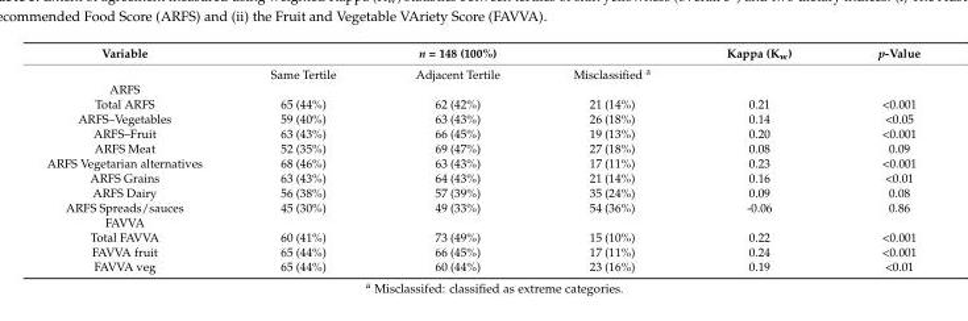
<table><thead><tr><td rowspan="2">Variable</td><td colspan="3">n = 148 (100%)</td><td rowspan="2">Kappa (K<sub>w</sub>)</td><td rowspan="2">p-Value</td></tr><tr><td>Same Tertile</td><td>Adjacent Tertile</td><td>Misclassified <sup>a</sup></td></tr></thead><tbody><tr><td colspan="6">ARFS</td></tr><tr><td>Total ARFS</td><td>65 (44%)</td><td>62 (42%)</td><td>21 (14%)</td><td>0.21</td><td>&lt;0.001</td></tr><tr><td>ARFS–Vegetables</td><td>59 (40%)</td><td>63 (43%)</td><td>26 (18%)</td><td>0.14</td><td>&lt;0.05</td></tr><tr><td>ARFS–Fruit</td><td>63 (43%)</td><td>66 (45%)</td><td>19 (13%)</td><td>0.20</td><td>&lt;0.001</td></tr><tr><td>ARFS Meat</td><td>52 (35%)</td><td>69 (47%)</td><td>27 (18%)</td><td>0.08</td><td>0.09</td></tr><tr><td>ARFS Vegetarian alternatives</td><td>68 (46%)</td><td>63 (43%)</td><td>17 (11%)</td><td>0.23</td><td>&lt;0.001</td></tr><tr><td>ARFS Grains</td><td>63 (43%)</td><td>64 (43%)</td><td>21 (14%)</td><td>0.16</td><td>&lt;0.01</td></tr><tr><td>ARFS Dairy</td><td>56 (38%)</td><td>57 (39%)</td><td>35 (24%)</td><td>0.09</td><td>0.08</td></tr><tr><td>ARFS Spreads/sauces</td><td>45 (30%)</td><td>49 (33%)</td><td>54 (36%)</td><td>-0.06</td><td>0.86</td></tr><tr><td colspan="6">FAVVA</td></tr><tr><td>Total FAVVA</td><td>60 (41%)</td><td>73 (49%)</td><td>15 (10%)</td><td>0.22</td><td>&lt;0.001</td></tr><tr><td>FAVVA fruit</td><td>65 (44%)</td><td>66 (45%)</td><td>17 (11%)</td><td>0.24</td><td>&lt;0.001</td></tr><tr><td>FAVVA veg</td><td>65 (44%)</td><td>60 (44%)</td><td>23 (16%)</td><td>0.19</td><td>&lt;0.01</td></tr></tbody></table>